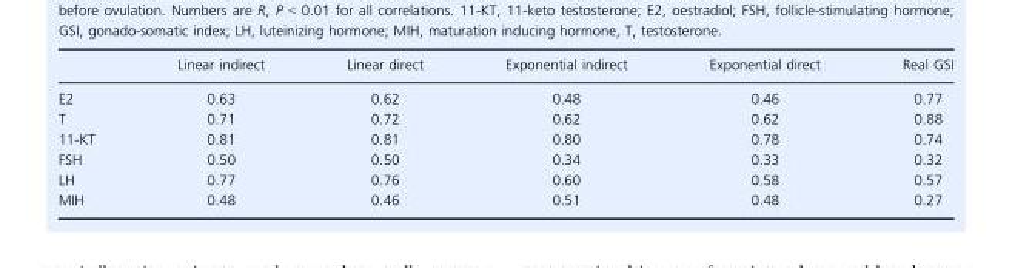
<table><thead><tr><td></td><td>Linear indirect</td><td>Linear direct</td><td>Exponential indirect</td><td>Exponential direct</td><td>Real GSI</td></tr></thead><tbody><tr><td>E2</td><td>0.63</td><td>0.62</td><td>0.48</td><td>0.46</td><td>0.77</td></tr><tr><td>T</td><td>0.71</td><td>0.72</td><td>0.62</td><td>0.62</td><td>0.88</td></tr><tr><td>11-KT</td><td>0.81</td><td>0.81</td><td>0.80</td><td>0.78</td><td>0.74</td></tr><tr><td>FSH</td><td>0.50</td><td>0.50</td><td>0.34</td><td>0.33</td><td>0.32</td></tr><tr><td>LH</td><td>0.77</td><td>0.76</td><td>0.60</td><td>0.58</td><td>0.57</td></tr><tr><td>MIH</td><td>0.48</td><td>0.46</td><td>0.51</td><td>0.48</td><td>0.27</td></tr></tbody></table>